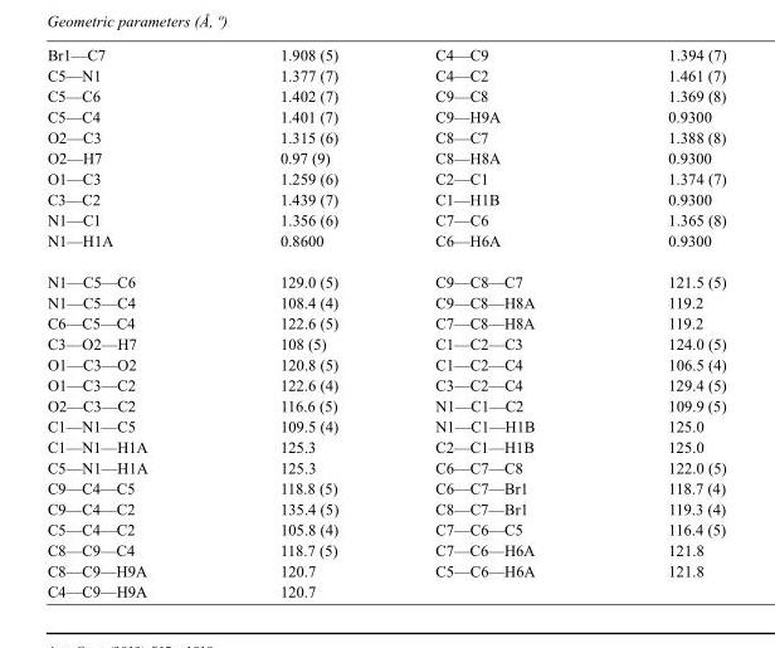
<table><tbody><tr><td>Br1—C7</td><td>1.908 (5)</td><td>C4—C9</td><td>1.394 (7)</td></tr><tr><td>C5—N1</td><td>1.377 (7)</td><td>C4—C2</td><td>1.461 (7)</td></tr><tr><td>C5—C6</td><td>1.402 (7)</td><td>C9—C8</td><td>1.369 (8)</td></tr><tr><td>C5—C4</td><td>1.401 (7)</td><td>C9—H9A</td><td>0.9300</td></tr><tr><td>O2—C3</td><td>1.315 (6)</td><td>C8—C7</td><td>1.388 (8)</td></tr><tr><td>O2—H7</td><td>0.97 (9)</td><td>C8—H8A</td><td>0.9300</td></tr><tr><td>O1—C3</td><td>1.259 (6)</td><td>C2—C1</td><td>1.374 (7)</td></tr><tr><td>C3—C2</td><td>1.439 (7)</td><td>C1—H1B</td><td>0.9300</td></tr><tr><td>N1—C1</td><td>1.356 (6)</td><td>C7—C6</td><td>1.365 (8)</td></tr><tr><td>N1—H1A</td><td>0.8600</td><td>C6—H6A</td><td>0.9300</td></tr><tr><td>N1—C5—C6</td><td>129.0 (5)</td><td>C9—C8—C7</td><td>121.5 (5)</td></tr><tr><td>N1—C5—C4</td><td>108.4 (4)</td><td>C9—C8—H8A</td><td>119.2</td></tr><tr><td>C6—C5—C4</td><td>122.6 (5)</td><td>C7—C8—H8A</td><td>119.2</td></tr><tr><td>C3—O2—H7</td><td>108 (5)</td><td>C1—C2—C3</td><td>124.0 (5)</td></tr><tr><td>O1—C3—O2</td><td>120.8 (5)</td><td>C1—C2—C4</td><td>106.5 (4)</td></tr><tr><td>O1—C3—C2</td><td>122.6 (4)</td><td>C3—C2—C4</td><td>129.4 (5)</td></tr><tr><td>O2—C3—C2</td><td>116.6 (5)</td><td>N1—C1—C2</td><td>109.9 (5)</td></tr><tr><td>C1—N1—C5</td><td>109.5 (4)</td><td>N1—C1—H1B</td><td>125.0</td></tr><tr><td>C1—N1—H1A</td><td>125.3</td><td>C2—C1—H1B</td><td>125.0</td></tr><tr><td>C5—N1—H1A</td><td>125.3</td><td>C6—C7—C8</td><td>122.0 (5)</td></tr><tr><td>C9—C4—C5</td><td>118.8 (5)</td><td>C6—C7—Br1</td><td>118.7 (4)</td></tr><tr><td>C9—C4—C2</td><td>135.4 (5)</td><td>C8—C7—Br1</td><td>119.3 (4)</td></tr><tr><td>C5—C4—C2</td><td>105.8 (4)</td><td>C7—C6—C5</td><td>116.4 (5)</td></tr><tr><td>C8—C9—C4</td><td>118.7 (5)</td><td>C7—C6—H6A</td><td>121.8</td></tr><tr><td>C8—C9—H9A</td><td>120.7</td><td>C5—C6—H6A</td><td>121.8</td></tr><tr><td>C4—C9—H9A</td><td>120.7</td><td></td><td></td></tr></tbody></table>